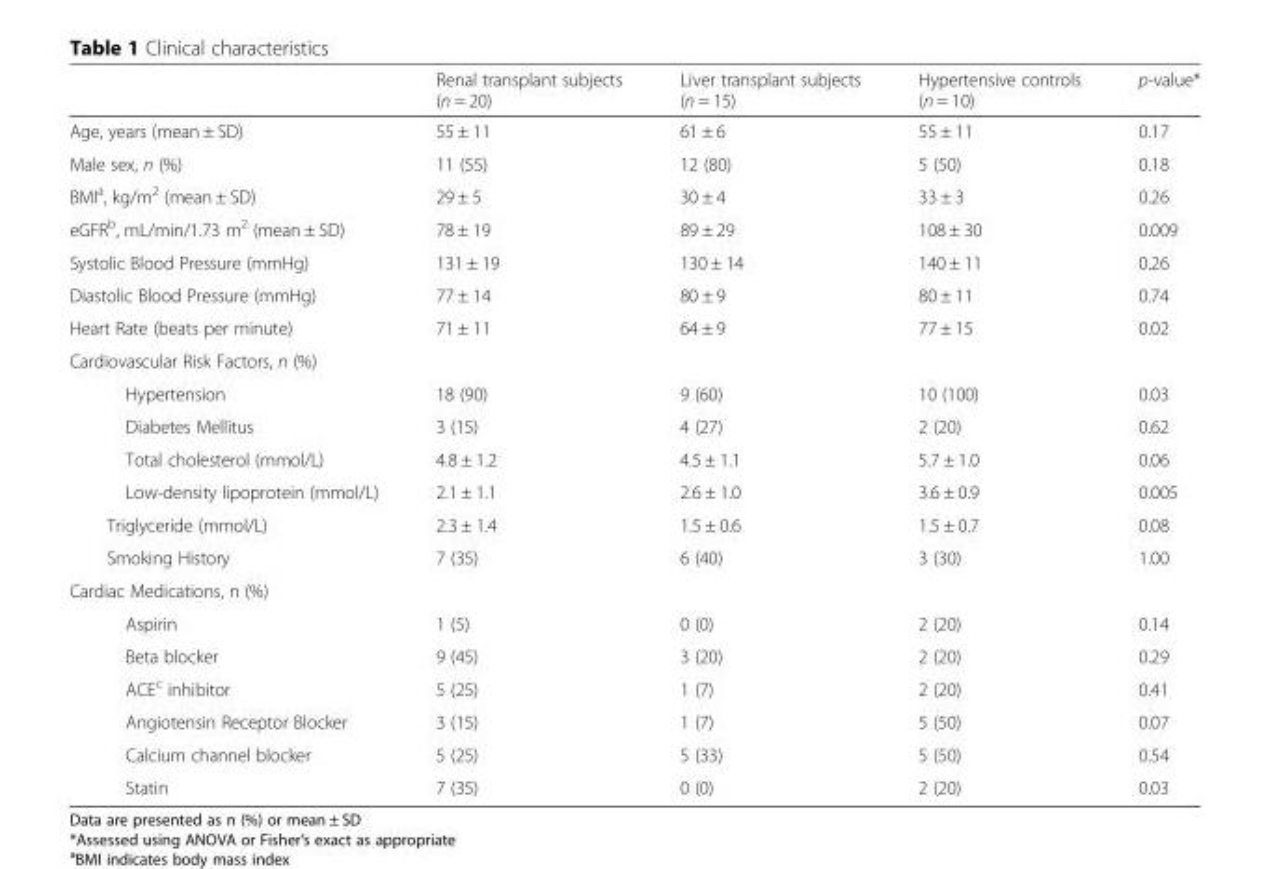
<table><thead><tr><td></td><td>Renal transplant subjects (n = 20)</td><td>Liver transplant subjects (n = 15)</td><td>Hypertensive controls (n = 10)</td><td>p-value*</td></tr></thead><tbody><tr><td>Age, years (mean ± SD)</td><td>55 ± 11</td><td>61 ± 6</td><td>55 ± 11</td><td>0.17</td></tr><tr><td>Male sex, n (%)</td><td>11 (55)</td><td>12 (80)</td><td>5 (50)</td><td>0.18</td></tr><tr><td>BMI<sup>a</sup>, kg/m<sup>2</sup> (mean ± SD)</td><td>29 ± 5</td><td>30 ± 4</td><td>33 ± 3</td><td>0.26</td></tr><tr><td>eGFR<sup>b</sup>, mL/min/1.73 m<sup>2</sup> (mean ± SD)</td><td>78 ± 19</td><td>89 ± 29</td><td>108 ± 30</td><td>0.009</td></tr><tr><td>Systolic Blood Pressure (mmHg)</td><td>131 ± 19</td><td>130 ± 14</td><td>140 ± 11</td><td>0.26</td></tr><tr><td>Diastolic Blood Pressure (mmHg)</td><td>77 ± 14</td><td>80 ± 9</td><td>80 ± 11</td><td>0.74</td></tr><tr><td>Heart Rate (beats per minute)</td><td>71 ± 11</td><td>64 ± 9</td><td>77 ± 15</td><td>0.02</td></tr><tr><td colspan="5">Cardiovascular Risk Factors, n (%)</td></tr><tr><td>Hypertension</td><td>18 (90)</td><td>9 (60)</td><td>10 (100)</td><td>0.03</td></tr><tr><td>Diabetes Mellitus</td><td>3 (15)</td><td>4 (27)</td><td>2 (20)</td><td>0.62</td></tr><tr><td>Total cholesterol (mmol/L)</td><td>4.8 ± 1.2</td><td>4.5 ± 1.1</td><td>5.7 ± 1.0</td><td>0.06</td></tr><tr><td>Low-density lipoprotein (mmol/L)</td><td>2.1 ± 1.1</td><td>2.6 ± 1.0</td><td>3.6 ± 0.9</td><td>0.005</td></tr><tr><td>Triglyceride (mmol/L)</td><td>2.3 ± 1.4</td><td>1.5 ± 0.6</td><td>1.5 ± 0.7</td><td>0.08</td></tr><tr><td>Smoking History</td><td>7 (35)</td><td>6 (40)</td><td>3 (30)</td><td>1.00</td></tr><tr><td colspan="5">Cardiac Medications, n (%)</td></tr><tr><td>Aspirin</td><td>1 (5)</td><td>0 (0)</td><td>2 (20)</td><td>0.14</td></tr><tr><td>Beta blocker</td><td>9 (45)</td><td>3 (20)</td><td>2 (20)</td><td>0.29</td></tr><tr><td>ACE<sup>c</sup> inhibitor</td><td>5 (25)</td><td>1 (7)</td><td>2 (20)</td><td>0.41</td></tr><tr><td>Angiotensin Receptor Blocker</td><td>3 (15)</td><td>1 (7)</td><td>5 (50)</td><td>0.07</td></tr><tr><td>Calcium channel blocker</td><td>5 (25)</td><td>5 (33)</td><td>5 (50)</td><td>0.54</td></tr><tr><td>Statin</td><td>7 (35)</td><td>0 (0)</td><td>2 (20)</td><td>0.03</td></tr></tbody></table>